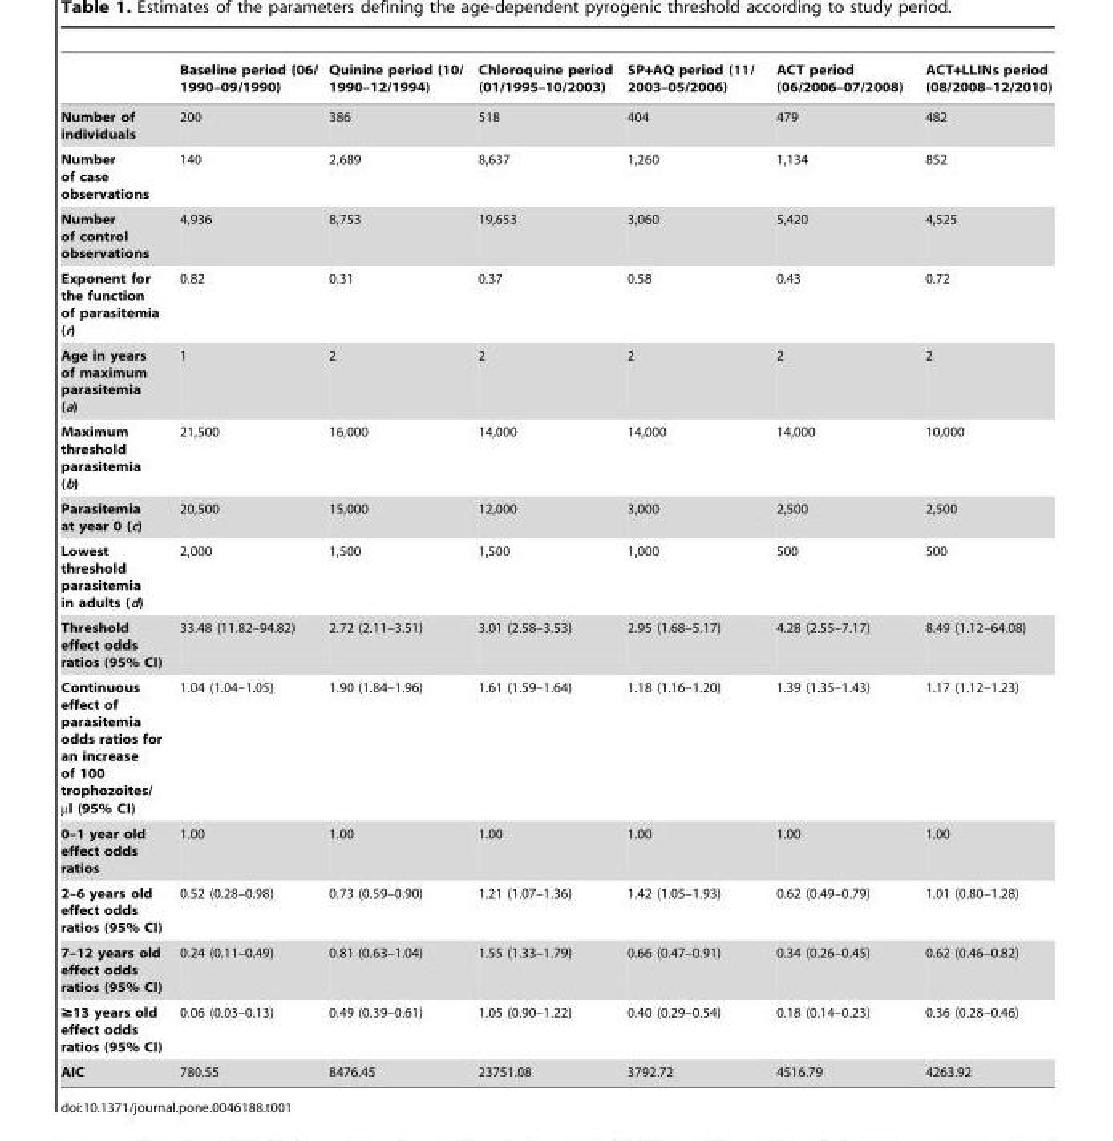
<table><thead><tr><td></td><td>Baseline period (06/ 1990–09/1990)</td><td>Quinine period (10/ 1990–12/1994)</td><td>Chloroquine period (01/1995–10/2003)</td><td>SP+AQ period (11/ 2003–05/2006)</td><td>ACT period (06/2006–07/2008)</td><td>ACT+LLINs period (08/2008–12/2010)</td></tr></thead><tbody><tr><td>Number of individuals</td><td>200</td><td>386</td><td>518</td><td>404</td><td>479</td><td>482</td></tr><tr><td>Number of case observations</td><td>140</td><td>2,689</td><td>8,637</td><td>1,260</td><td>1,134</td><td>852</td></tr><tr><td>Number of control observations</td><td>4,936</td><td>8,753</td><td>19,653</td><td>3,060</td><td>5,420</td><td>4,525</td></tr><tr><td>Exponent for the function of parasitemia (r)</td><td>0.82</td><td>0.31</td><td>0.37</td><td>0.58</td><td>0.43</td><td>0.72</td></tr><tr><td>Age in years of maximum parasitemia (a)</td><td>1</td><td>2</td><td>2</td><td>2</td><td>2</td><td>2</td></tr><tr><td>Maximum threshold parasitemia (b)</td><td>21,500</td><td>16,000</td><td>14,000</td><td>14,000</td><td>14,000</td><td>10,000</td></tr><tr><td>Parasitemia at year 0 (c)</td><td>20,500</td><td>15,000</td><td>12,000</td><td>3,000</td><td>2,500</td><td>2,500</td></tr><tr><td>Lowest threshold parasitemia in adults (d)</td><td>2,000</td><td>1,500</td><td>1,500</td><td>1,000</td><td>500</td><td>500</td></tr><tr><td>Threshold effect odds ratios (95% CI)</td><td>33.48 (11.82–94.82)</td><td>2.72 (2.11–3.51)</td><td>3.01 (2.58–3.53)</td><td>2.95 (1.68–5.17)</td><td>4.28 (2.55–7.17)</td><td>8.49 (1.12–64.08)</td></tr><tr><td>Continuous effect of parasitemia odds ratios for an increase of 100 trophozoites/ µl (95% CI)</td><td>1.04 (1.04–1.05)</td><td>1.90 (1.84–1.96)</td><td>1.61 (1.59–1.64)</td><td>1.18 (1.16–1.20)</td><td>1.39 (1.35–1.43)</td><td>1.17 (1.12–1.23)</td></tr><tr><td>0–1 year old effect odds ratios</td><td>1.00</td><td>1.00</td><td>1.00</td><td>1.00</td><td>1.00</td><td>1.00</td></tr><tr><td>2–6 years old effect odds ratios (95% CI)</td><td>0.52 (0.28–0.98)</td><td>0.73 (0.59–0.90)</td><td>1.21 (1.07–1.36)</td><td>1.42 (1.05–1.93)</td><td>0.62 (0.49–0.79)</td><td>1.01 (0.80–1.28)</td></tr><tr><td>7–12 years old effect odds ratios (95% CI)</td><td>0.24 (0.11–0.49)</td><td>0.81 (0.63–1.04)</td><td>1.55 (1.33–1.79)</td><td>0.66 (0.47–0.91)</td><td>0.34 (0.26–0.45)</td><td>0.62 (0.46–0.82)</td></tr><tr><td>≥13 years old effect odds ratios (95% CI)</td><td>0.06 (0.03–0.13)</td><td>0.49 (0.39–0.61)</td><td>1.05 (0.90–1.22)</td><td>0.40 (0.29–0.54)</td><td>0.18 (0.14–0.23)</td><td>0.36 (0.28–0.46)</td></tr><tr><td>AIC</td><td>780.55</td><td>8476.45</td><td>23751.08</td><td>3792.72</td><td>4516.79</td><td>4263.92</td></tr></tbody></table>